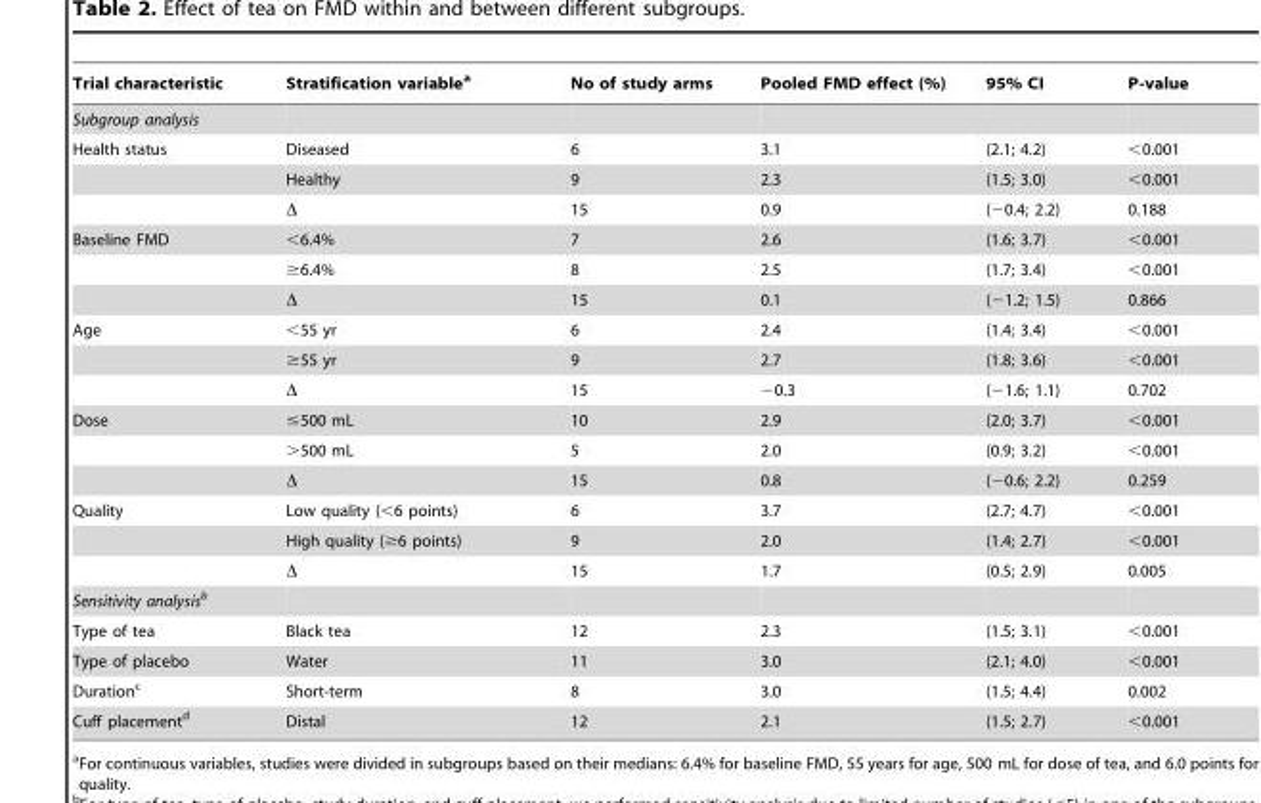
<table><thead><tr><td>Trial characteristic</td><td>Stratification variable<sup>a</sup></td><td>No of study arms</td><td>Pooled FMD effect (%)</td><td>95% CI</td><td>P-value</td></tr></thead><tbody><tr><td colspan="6">Subgroup analysis</td></tr><tr><td rowspan="3">Health status</td><td>Diseased</td><td>6</td><td>3.1</td><td>(2.1; 4.2)</td><td>&lt;0.001</td></tr><tr><td>Healthy</td><td>9</td><td>2.3</td><td>(1.5; 3.0)</td><td>&lt;0.001</td></tr><tr><td>Δ</td><td>15</td><td>0.9</td><td>(−0.4; 2.2)</td><td>0.188</td></tr><tr><td rowspan="3">Baseline FMD</td><td>&lt;6.4%</td><td>7</td><td>2.6</td><td>(1.6; 3.7)</td><td>&lt;0.001</td></tr><tr><td>≥6.4%</td><td>8</td><td>2.5</td><td>(1.7; 3.4)</td><td>&lt;0.001</td></tr><tr><td>Δ</td><td>15</td><td>0.1</td><td>(−1.2; 1.5)</td><td>0.866</td></tr><tr><td rowspan="3">Age</td><td>&lt;55 yr</td><td>6</td><td>2.4</td><td>(1.4; 3.4)</td><td>&lt;0.001</td></tr><tr><td>≥55 yr</td><td>9</td><td>2.7</td><td>(1.8; 3.6)</td><td>&lt;0.001</td></tr><tr><td>Δ</td><td>15</td><td>−0.3</td><td>(−1.6; 1.1)</td><td>0.702</td></tr><tr><td rowspan="3">Dose</td><td>≤500 mL</td><td>10</td><td>2.9</td><td>(2.0; 3.7)</td><td>&lt;0.001</td></tr><tr><td>&gt;500 mL</td><td>5</td><td>2.0</td><td>(0.9; 3.2)</td><td>&lt;0.001</td></tr><tr><td>Δ</td><td>15</td><td>0.8</td><td>(−0.6; 2.2)</td><td>0.259</td></tr><tr><td rowspan="3">Quality</td><td>Low quality (&lt;6 points)</td><td>6</td><td>3.7</td><td>(2.7; 4.7)</td><td>&lt;0.001</td></tr><tr><td>High quality (≥6 points)</td><td>9</td><td>2.0</td><td>(1.4; 2.7)</td><td>&lt;0.001</td></tr><tr><td>Δ</td><td>15</td><td>1.7</td><td>(0.5; 2.9)</td><td>0.005</td></tr><tr><td colspan="6">Sensitivity analysisb</td></tr><tr><td>Type of tea</td><td>Black tea</td><td>12</td><td>2.3</td><td>(1.5; 3.1)</td><td>&lt;0.001</td></tr><tr><td>Type of placebo</td><td>Water</td><td>11</td><td>3.0</td><td>(2.1; 4.0)</td><td>&lt;0.001</td></tr><tr><td>Duration<sup>c</sup></td><td>Short-term</td><td>8</td><td>3.0</td><td>(1.5; 4.4)</td><td>0.002</td></tr><tr><td>Cuff placement<sup>d</sup></td><td>Distal</td><td>12</td><td>2.1</td><td>(1.5; 2.7)</td><td>&lt;0.001</td></tr></tbody></table>